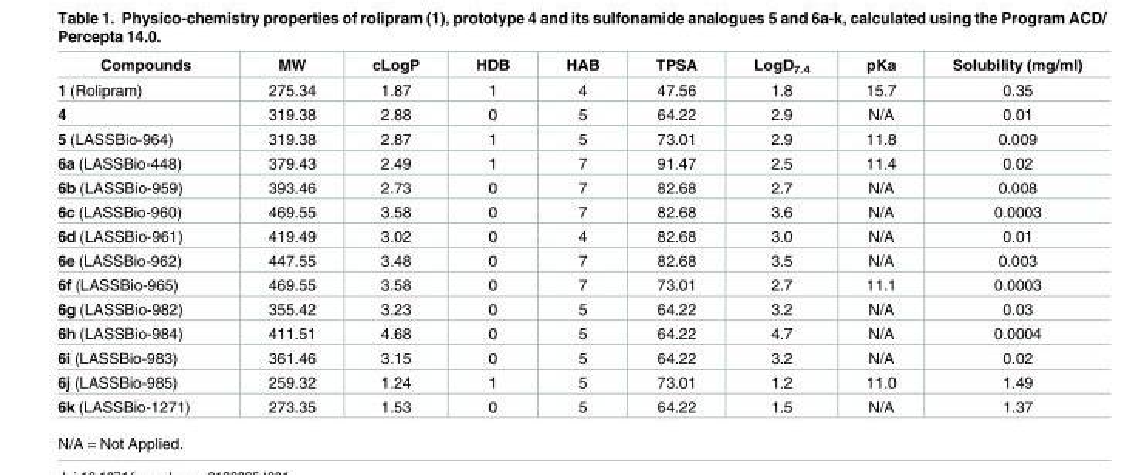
<table><thead><tr><td>Compounds</td><td>MW</td><td>cLogP</td><td>HDB</td><td>HAB</td><td>TPSA</td><td>LogD<sub>7.4</sub></td><td>pKa</td><td>Solubility (mg/ml)</td></tr></thead><tbody><tr><td>1 (Rolipram)</td><td>275.34</td><td>1.87</td><td>1</td><td>4</td><td>47.56</td><td>1.8</td><td>15.7</td><td>0.35</td></tr><tr><td>4</td><td>319.38</td><td>2.88</td><td>0</td><td>5</td><td>64.22</td><td>2.9</td><td>N/A</td><td>0.01</td></tr><tr><td>5 (LASSBio-964)</td><td>319.38</td><td>2.87</td><td>1</td><td>5</td><td>73.01</td><td>2.9</td><td>11.8</td><td>0.009</td></tr><tr><td>6a (LASSBio-448)</td><td>379.43</td><td>2.49</td><td>1</td><td>7</td><td>91.47</td><td>2.5</td><td>11.4</td><td>0.02</td></tr><tr><td>6b (LASSBio-959)</td><td>393.46</td><td>2.73</td><td>0</td><td>7</td><td>82.68</td><td>2.7</td><td>N/A</td><td>0.008</td></tr><tr><td>6c (LASSBio-960)</td><td>469.55</td><td>3.58</td><td>0</td><td>7</td><td>82.68</td><td>3.6</td><td>N/A</td><td>0.0003</td></tr><tr><td>6d (LASSBio-961)</td><td>419.49</td><td>3.02</td><td>0</td><td>4</td><td>82.68</td><td>3.0</td><td>N/A</td><td>0.01</td></tr><tr><td>6e (LASSBio-962)</td><td>447.55</td><td>3.48</td><td>0</td><td>7</td><td>82.68</td><td>3.5</td><td>N/A</td><td>0.003</td></tr><tr><td>6f (LASSBio-965)</td><td>469.55</td><td>3.58</td><td>0</td><td>7</td><td>73.01</td><td>2.7</td><td>11.1</td><td>0.0003</td></tr><tr><td>6g (LASSBio-982)</td><td>355.42</td><td>3.23</td><td>0</td><td>5</td><td>64.22</td><td>3.2</td><td>N/A</td><td>0.03</td></tr><tr><td>6h (LASSBio-984)</td><td>411.51</td><td>4.68</td><td>0</td><td>5</td><td>64.22</td><td>4.7</td><td>N/A</td><td>0.0004</td></tr><tr><td>6i (LASSBio-983)</td><td>361.46</td><td>3.15</td><td>0</td><td>5</td><td>64.22</td><td>3.2</td><td>N/A</td><td>0.02</td></tr><tr><td>6j (LASSBio-985)</td><td>259.32</td><td>1.24</td><td>1</td><td>5</td><td>73.01</td><td>1.2</td><td>11.0</td><td>1.49</td></tr><tr><td>6k (LASSBio-1271)</td><td>273.35</td><td>1.53</td><td>0</td><td>5</td><td>64.22</td><td>1.5</td><td>N/A</td><td>1.37</td></tr></tbody></table>